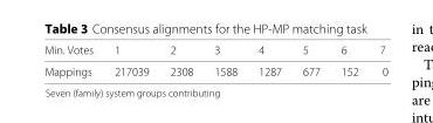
<table><thead><tr><td>Min. Votes</td><td>1</td><td>2</td><td>3</td><td>4</td><td>5</td><td>6</td><td>7</td></tr></thead><tbody><tr><td>Mappings</td><td>217039</td><td>2308</td><td>1588</td><td>1287</td><td>677</td><td>152</td><td>0</td></tr></tbody></table>